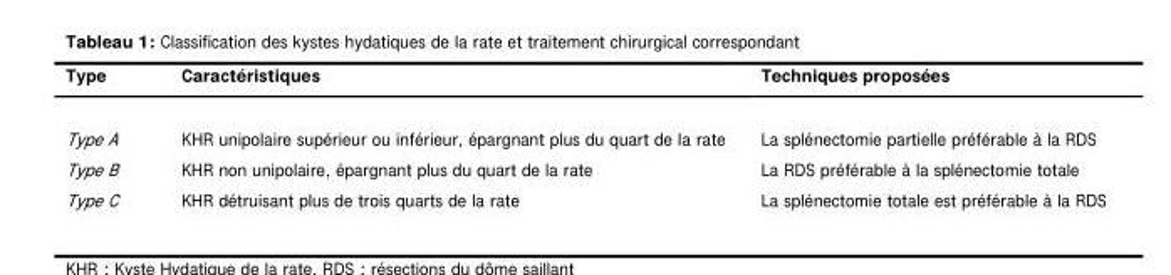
<table><thead><tr><td>Type</td><td>Caractéristiques</td><td>Techniques proposées</td></tr></thead><tbody><tr><td>Type A</td><td>KHR unipolaire supérieur ou inférieur, épargnant plus du quart de la rate</td><td>La splénectomie partielle préférable à la RDS</td></tr><tr><td>Type B</td><td>KHR non unipolaire, épargnant plus du quart de la rate</td><td>La RDS préférable à la splénectomie totale</td></tr><tr><td>Type C</td><td>KHR détruisant plus de trois quarts de la rate</td><td>La splénectomie totale est préférable à la RDS</td></tr></tbody></table>